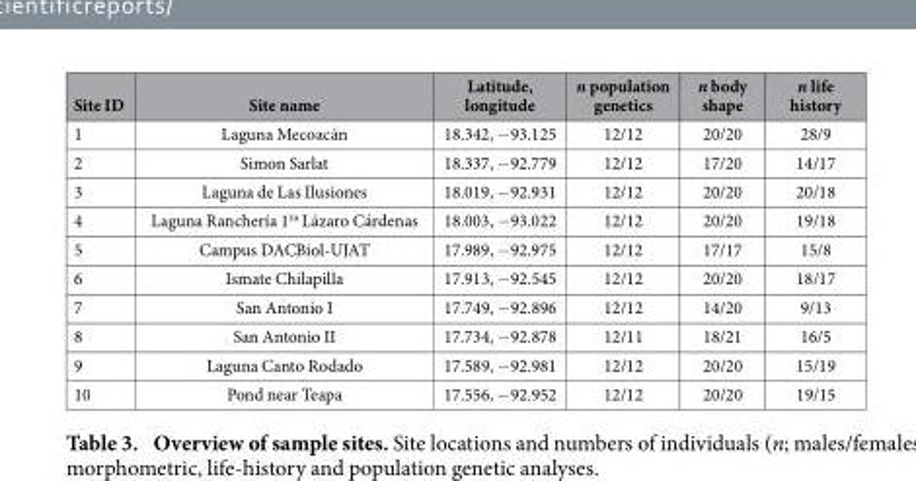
<table><thead><tr><td>Site ID</td><td>Site name</td><td>Latitude, longitude</td><td>n population genetics</td><td>n body shape</td><td>n life history</td></tr></thead><tbody><tr><td>1</td><td>Laguna Mecoacán</td><td>18.342, − 93.125</td><td>12/12</td><td>20/20</td><td>28/9</td></tr><tr><td>2</td><td>Simon Sarlat</td><td>18.337, − 92.779</td><td>12/12</td><td>17/20</td><td>14/17</td></tr><tr><td>3</td><td>Laguna de Las Ilusiones</td><td>18.019, − 92.931</td><td>12/12</td><td>20/20</td><td>20/18</td></tr><tr><td>4</td><td>Laguna Ranchería 1<sup>ra</sup> Lázaro Cárdenas</td><td>18.003, − 93.022</td><td>12/12</td><td>20/20</td><td>19/18</td></tr><tr><td>5</td><td>Campus DACBiol-UJAT</td><td>17.989, − 92.975</td><td>12/12</td><td>17/17</td><td>15/8</td></tr><tr><td>6</td><td>Ismate Chilapilla</td><td>17.913, − 92.545</td><td>12/12</td><td>20/20</td><td>18/17</td></tr><tr><td>7</td><td>San Antonio I</td><td>17.749, − 92.896</td><td>12/12</td><td>14/20</td><td>9/13</td></tr><tr><td>8</td><td>San Antonio II</td><td>17.734, − 92.878</td><td>12/11</td><td>18/21</td><td>16/5</td></tr><tr><td>9</td><td>Laguna Canto Rodado</td><td>17.589, − 92.981</td><td>12/12</td><td>20/20</td><td>15/19</td></tr><tr><td>10</td><td>Pond near Teapa</td><td>17.556, − 92.952</td><td>12/12</td><td>20/20</td><td>19/15</td></tr></tbody></table>